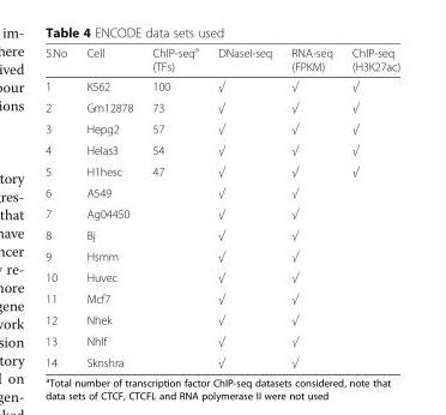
<table><thead><tr><td>S.No</td><td>Cell</td><td>ChIP-seq<sup>a</sup> (TFs)</td><td>DNaseI-seq</td><td>RNA-seq (FPKM)</td><td>ChIP-seq (H3K27ac)</td></tr></thead><tbody><tr><td>1</td><td>K562</td><td>100</td><td>√</td><td>√</td><td>√</td></tr><tr><td>2</td><td>Gm12878</td><td>73</td><td>√</td><td>√</td><td>√</td></tr><tr><td>3</td><td>Hepg2</td><td>57</td><td>√</td><td>√</td><td>√</td></tr><tr><td>4</td><td>Helas3</td><td>54</td><td>√</td><td>√</td><td>√</td></tr><tr><td>5</td><td>H1hesc</td><td>47</td><td>√</td><td>√</td><td>√</td></tr><tr><td>6</td><td>A549</td><td></td><td>√</td><td>√</td><td></td></tr><tr><td>7</td><td>Ag04450</td><td></td><td>√</td><td>√</td><td></td></tr><tr><td>8</td><td>Bj</td><td></td><td>√</td><td>√</td><td></td></tr><tr><td>9</td><td>Hsmm</td><td></td><td>√</td><td>√</td><td></td></tr><tr><td>10</td><td>Huvec</td><td></td><td>√</td><td>√</td><td></td></tr><tr><td>11</td><td>Mcf7</td><td></td><td>√</td><td>√</td><td></td></tr><tr><td>12</td><td>Nhek</td><td></td><td>√</td><td>√</td><td></td></tr><tr><td>13</td><td>Nhlf</td><td></td><td>√</td><td>√</td><td></td></tr><tr><td>14</td><td>Sknshra</td><td></td><td>√</td><td>√</td><td></td></tr></tbody></table>